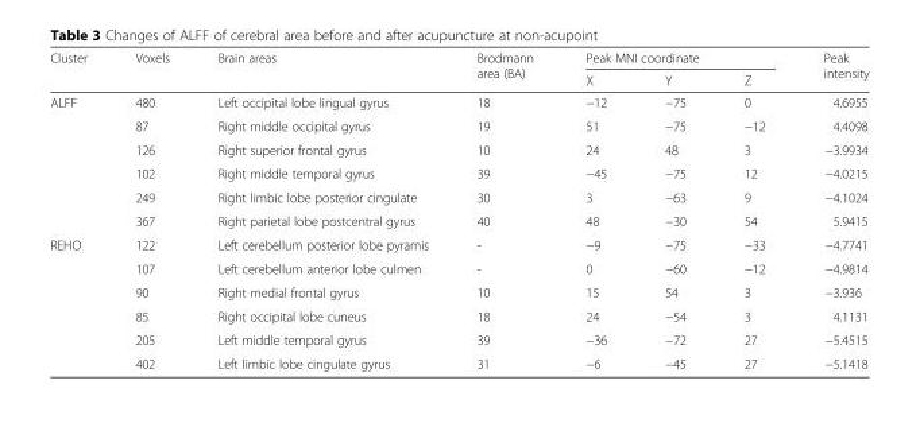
<table><thead><tr><td rowspan="2">Cluster</td><td rowspan="2">Voxels</td><td rowspan="2">Brain areas</td><td rowspan="2">Brodmann area (BA)</td><td colspan="3">Peak MNI coordinate</td><td rowspan="2">Peak intensity</td></tr><tr><td>X</td><td>Y</td><td>Z</td></tr></thead><tbody><tr><td rowspan="6">ALFF</td><td>480</td><td>Left occipital lobe lingual gyrus</td><td>18</td><td>−12</td><td>−75</td><td>0</td><td>4.6955</td></tr><tr><td>87</td><td>Right middle occipital gyrus</td><td>19</td><td>51</td><td>−75</td><td>−12</td><td>4.4098</td></tr><tr><td>126</td><td>Right superior frontal gyrus</td><td>10</td><td>24</td><td>48</td><td>3</td><td>−3.9934</td></tr><tr><td>102</td><td>Right middle temporal gyrus</td><td>39</td><td>−45</td><td>−75</td><td>12</td><td>−4.0215</td></tr><tr><td>249</td><td>Right limbic lobe posterior cingulate</td><td>30</td><td>3</td><td>−63</td><td>9</td><td>−4.1024</td></tr><tr><td>367</td><td>Right parietal lobe postcentral gyrus</td><td>40</td><td>48</td><td>−30</td><td>54</td><td>5.9415</td></tr><tr><td rowspan="6">REHO</td><td>122</td><td>Left cerebellum posterior lobe pyramis</td><td>-</td><td>−9</td><td>−75</td><td>−33</td><td>−4.7741</td></tr><tr><td>107</td><td>Left cerebellum anterior lobe culmen</td><td>-</td><td>0</td><td>−60</td><td>−12</td><td>−4.9814</td></tr><tr><td>90</td><td>Right medial frontal gyrus</td><td>10</td><td>15</td><td>54</td><td>3</td><td>−3.936</td></tr><tr><td>85</td><td>Right occipital lobe cuneus</td><td>18</td><td>24</td><td>−54</td><td>3</td><td>4.1131</td></tr><tr><td>205</td><td>Left middle temporal gyrus</td><td>39</td><td>−36</td><td>−72</td><td>27</td><td>−5.4515</td></tr><tr><td>402</td><td>Left limbic lobe cingulate gyrus</td><td>31</td><td>−6</td><td>−45</td><td>27</td><td>−5.1418</td></tr></tbody></table>